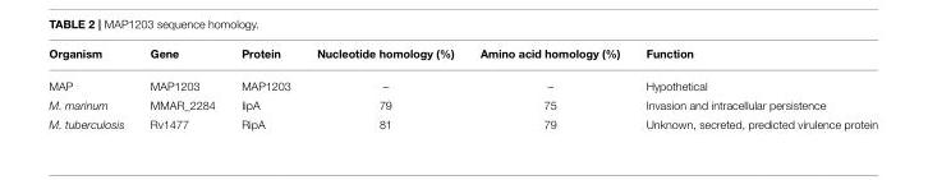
<table><thead><tr><td>Organism</td><td>Gene</td><td>Protein</td><td>Nucleotide homology (%)</td><td>Amino acid homology (%)</td><td>Function</td></tr></thead><tbody><tr><td>MAP</td><td>MAP1203</td><td>MAP1203</td><td>–</td><td>–</td><td>Hypothetical</td></tr><tr><td>M. marinum</td><td>MMAR_2284</td><td>IipA</td><td>79</td><td>75</td><td>Invasion and intracellular persistence</td></tr><tr><td>M. tuberculosis</td><td>Rv1477</td><td>RipA</td><td>81</td><td>79</td><td>Unknown, secreted, predicted virulence protein</td></tr></tbody></table>